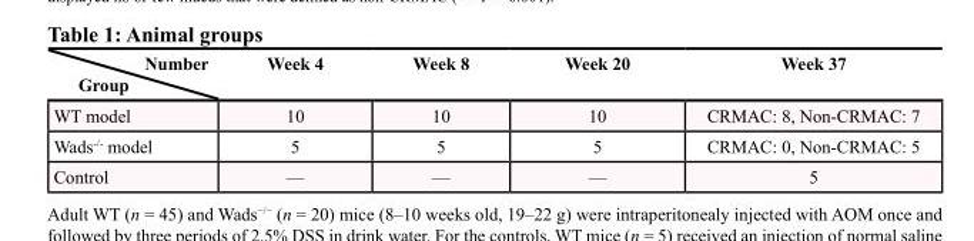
<table><thead><tr><td>Number Group</td><td>Week 4</td><td>Week 8</td><td>Week 20</td><td>Week 37</td></tr></thead><tbody><tr><td>WT model</td><td>10</td><td>10</td><td>10</td><td>CRMAC: 8, Non-CRMAC: 7</td></tr><tr><td>Wads<sup>-/-</sup> model</td><td>5</td><td>5</td><td>5</td><td>CRMAC: 0, Non-CRMAC: 5</td></tr><tr><td>Control</td><td>—</td><td>—</td><td>—</td><td>5</td></tr></tbody></table>